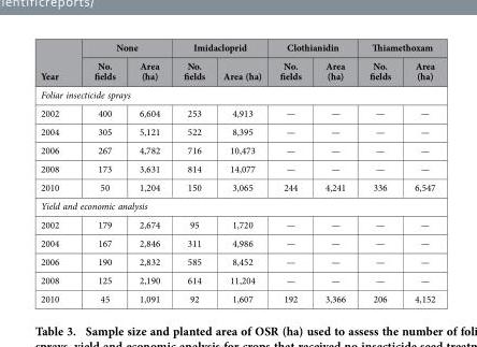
<table><thead><tr><td rowspan="2">Year</td><td colspan="2">None</td><td colspan="2">Imidacloprid</td><td colspan="2">Clothianidin</td><td colspan="2">Thiamethoxam</td></tr><tr><td>No. fields</td><td>Area (ha)</td><td>No. fields</td><td>Area (ha)</td><td>No. fields</td><td>Area (ha)</td><td>No. fields</td><td>Area (ha)</td></tr></thead><tbody><tr><td colspan="9">Foliar insecticide sprays</td></tr><tr><td>2002</td><td>400</td><td>6,604</td><td>253</td><td>4,913</td><td>—</td><td>—</td><td>—</td><td>—</td></tr><tr><td>2004</td><td>305</td><td>5,121</td><td>522</td><td>8,395</td><td>—</td><td>—</td><td>—</td><td>—</td></tr><tr><td>2006</td><td>267</td><td>4,782</td><td>716</td><td>10,473</td><td>—</td><td>—</td><td>—</td><td>—</td></tr><tr><td>2008</td><td>173</td><td>3,631</td><td>814</td><td>14,077</td><td>—</td><td>—</td><td>—</td><td>—</td></tr><tr><td>2010</td><td>50</td><td>1,204</td><td>150</td><td>3,065</td><td>244</td><td>4,241</td><td>336</td><td>6,547</td></tr><tr><td colspan="9">Yield and economic analysis</td></tr><tr><td>2002</td><td>179</td><td>2,674</td><td>95</td><td>1,720</td><td>—</td><td>—</td><td>—</td><td>—</td></tr><tr><td>2004</td><td>167</td><td>2,846</td><td>311</td><td>4,986</td><td>—</td><td>—</td><td>—</td><td>—</td></tr><tr><td>2006</td><td>190</td><td>2,832</td><td>585</td><td>8,452</td><td>—</td><td>—</td><td>—</td><td>—</td></tr><tr><td>2008</td><td>125</td><td>2,190</td><td>614</td><td>11,204</td><td>—</td><td>—</td><td>—</td><td>—</td></tr><tr><td>2010</td><td>45</td><td>1,091</td><td>92</td><td>1,607</td><td>192</td><td>3,366</td><td>206</td><td>4,152</td></tr></tbody></table>